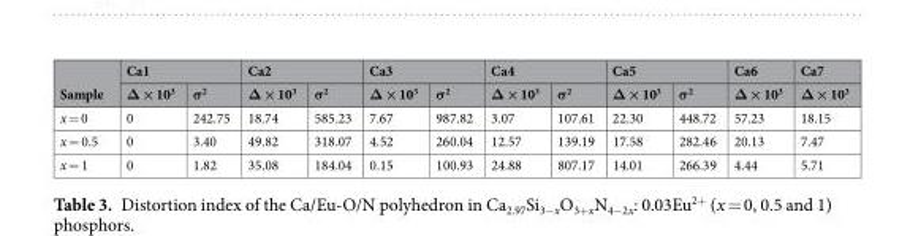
<table><thead><tr><td rowspan="2">Sample</td><td colspan="2">Ca1</td><td colspan="2">Ca2</td><td colspan="2">Ca3</td><td colspan="2">Ca4</td><td colspan="2">Ca5</td><td rowspan="2">Ca6 Δ × 10<sup>3</sup></td><td rowspan="2">Ca7 Δ × 10<sup>3</sup></td></tr><tr><td>Δ × 10<sup>3</sup></td><td>σ<sup>2</sup></td><td>Δ × 10<sup>3</sup></td><td>σ<sup>2</sup></td><td>Δ × 10<sup>3</sup></td><td>σ<sup>2</sup></td><td>Δ × 10<sup>3</sup></td><td>σ<sup>2</sup></td><td>Δ × 10<sup>3</sup></td><td>σ<sup>2</sup></td></tr></thead><tbody><tr><td>x = 0</td><td>0</td><td>242.75</td><td>18.74</td><td>585.23</td><td>7.67</td><td>987.82</td><td>3.07</td><td>107.61</td><td>22.30</td><td>448.72</td><td>57.23</td><td>18.15</td></tr><tr><td>x = 0.5</td><td>0</td><td>3.40</td><td>49.82</td><td>318.07</td><td>4.52</td><td>260.04</td><td>12.57</td><td>139.19</td><td>17.58</td><td>282.46</td><td>20.13</td><td>7.47</td></tr><tr><td>x = 1</td><td>0</td><td>1.82</td><td>35.08</td><td>184.04</td><td>0.15</td><td>100.93</td><td>24.88</td><td>807.17</td><td>14.01</td><td>266.39</td><td>4.44</td><td>5.71</td></tr></tbody></table>